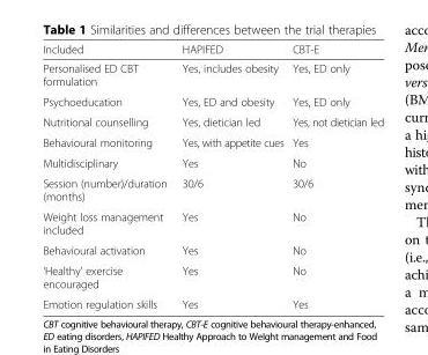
<table><thead><tr><td>Included</td><td>HAPIFED</td><td>CBT-E</td></tr></thead><tbody><tr><td>Personalised ED CBT formulation</td><td>Yes, includes obesity</td><td>Yes, ED only</td></tr><tr><td>Psychoeducation</td><td>Yes, ED and obesity</td><td>Yes, ED only</td></tr><tr><td>Nutritional counselling</td><td>Yes, dietician led</td><td>Yes, not dietician led</td></tr><tr><td>Behavioural monitoring</td><td>Yes, with appetite cues</td><td>Yes</td></tr><tr><td>Multidisciplinary</td><td>Yes</td><td>No</td></tr><tr><td>Session (number)/duration (months)</td><td>30/6</td><td>30/6</td></tr><tr><td>Weight loss management included</td><td>Yes</td><td>No</td></tr><tr><td>Behavioural activation</td><td>Yes</td><td>No</td></tr><tr><td>‘Healthy’ exercise encouraged</td><td>Yes</td><td>No</td></tr><tr><td>Emotion regulation skills</td><td>Yes</td><td>Yes</td></tr></tbody></table>